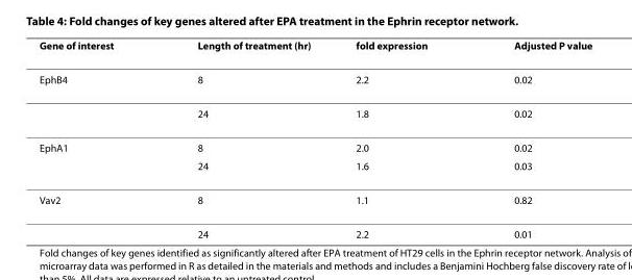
<table><thead><tr><td>Gene of interest</td><td>Length of treatment (hr)</td><td>fold expression</td><td>Adjusted P value</td></tr></thead><tbody><tr><td rowspan="2">EphB4</td><td>8</td><td>2.2</td><td>0.02</td></tr><tr><td>24</td><td>1.8</td><td>0.02</td></tr><tr><td rowspan="2">EphA1</td><td>8</td><td>2.0</td><td>0.02</td></tr><tr><td>24</td><td>1.6</td><td>0.03</td></tr><tr><td rowspan="2">Vav2</td><td>8</td><td>1.1</td><td>0.82</td></tr><tr><td>24</td><td>2.2</td><td>0.01</td></tr></tbody></table>